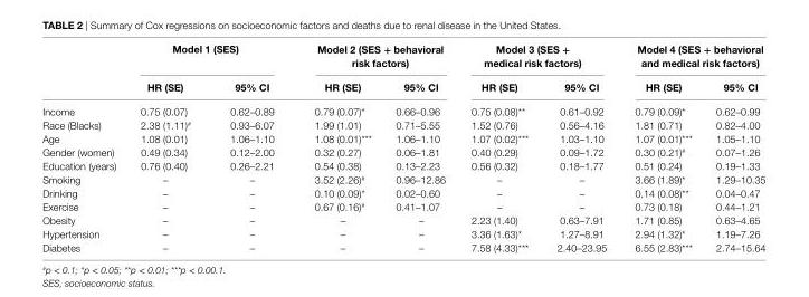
<table><thead><tr><td rowspan="2"></td><td colspan="2">Model 1 (ses)</td><td colspan="2">Model 2 (ses + behavioral risk factors)</td><td colspan="2">Model 3 (ses + medical risk factors)</td><td colspan="2">Model 4 (ses + behavioral and medical risk factors)</td></tr><tr><td>hr (se)</td><td>95% ci</td><td>hr (se)</td><td>95% ci</td><td>hr (se)</td><td>95% ci</td><td>hr (se)</td><td>95% ci</td></tr></thead><tbody><tr><td>Income</td><td>0.75 (0.07)</td><td>0.62–0.89</td><td>0.79 (0.07)*</td><td>0.66–0.96</td><td>0.75 (0.08)**</td><td>0.61–0.92</td><td>0.79 (0.09)*</td><td>0.62–0.99</td></tr><tr><td>Race (Blacks)</td><td>2.38 (1.11)<sup>#</sup></td><td>0.93–6.07</td><td>1.99 (1.01)</td><td>0.71–5.55</td><td>1.52 (0.76)</td><td>0.56–4.16</td><td>1.81 (0.71)</td><td>0.82–4.00</td></tr><tr><td>Age</td><td>1.08 (0.01)</td><td>1.06–1.10</td><td>1.08 (0.01)***</td><td>1.06–1.10</td><td>1.07 (0.02)***</td><td>1.03–1.10</td><td>1.07 (0.01)***</td><td>1.05–1.10</td></tr><tr><td>Gender (women)</td><td>0.49 (0.34)</td><td>0.12–2.00</td><td>0.32 (0.27)</td><td>0.06–1.81</td><td>0.40 (0.29)</td><td>0.09–1.72</td><td>0.30 (0.21)<sup>#</sup></td><td>0.07–1.26</td></tr><tr><td>Education (years)</td><td>0.76 (0.40)</td><td>0.26–2.21</td><td>0.54 (0.38)</td><td>0.13–2.23</td><td>0.56 (0.32)</td><td>0.18–1.77</td><td>0.51 (0.24)</td><td>0.19–1.33</td></tr><tr><td>Smoking</td><td>–</td><td>–</td><td>3.52 (2.26)<sup>#</sup></td><td>0.96–12.86</td><td>–</td><td>–</td><td>3.66 (1.89)*</td><td>1.29–10.35</td></tr><tr><td>Drinking</td><td>–</td><td>–</td><td>0.10 (0.09)*</td><td>0.02–0.60</td><td>–</td><td>–</td><td>0.14 (0.08)**</td><td>0.04–0.47</td></tr><tr><td>Exercise</td><td>–</td><td>–</td><td>0.67 (0.16)<sup>#</sup></td><td>0.41–1.07</td><td>–</td><td>–</td><td>0.73 (0.18)</td><td>0.44–1.21</td></tr><tr><td>Obesity</td><td>–</td><td>–</td><td>–</td><td>–</td><td>2.23 (1.40)</td><td>0.63–7.91</td><td>1.71 (0.85)</td><td>0.63–4.65</td></tr><tr><td>Hypertension</td><td>–</td><td>–</td><td>–</td><td>–</td><td>3.36 (1.63)*</td><td>1.27–8.91</td><td>2.94 (1.32)*</td><td>1.19–7.26</td></tr><tr><td>Diabetes</td><td>–</td><td>–</td><td>–</td><td>–</td><td>7.58 (4.33)***</td><td>2.40–23.95</td><td>6.55 (2.83)***</td><td>2.74–15.64</td></tr></tbody></table>